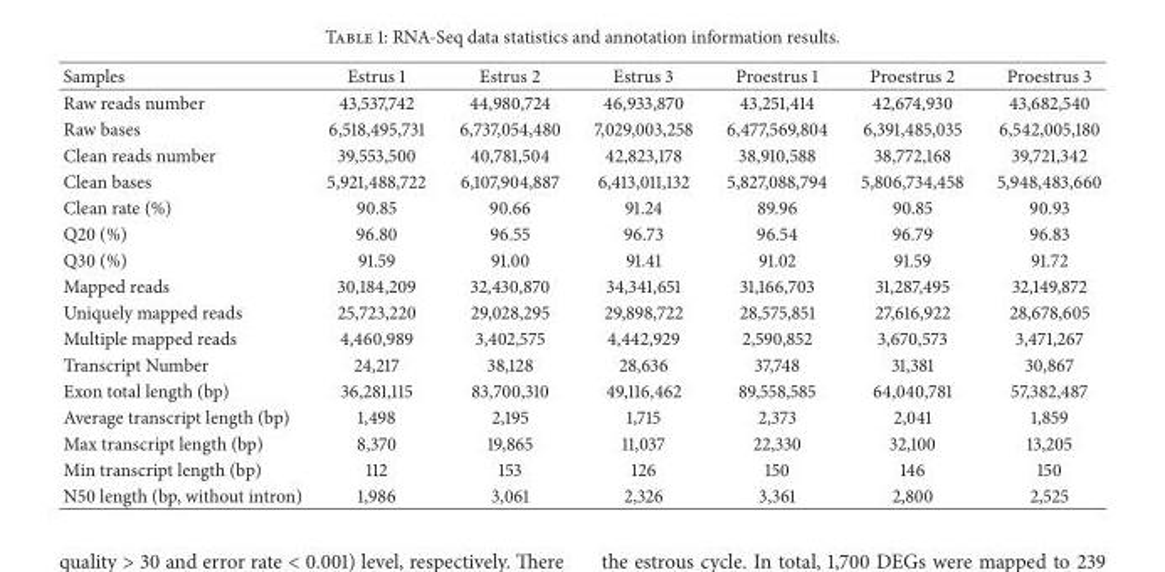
<table><thead><tr><td>Samples</td><td>Estrus 1</td><td>Estrus 2</td><td>Estrus 3</td><td>Proestrus 1</td><td>Proestrus 2</td><td>Proestrus 3</td></tr></thead><tbody><tr><td>Raw reads number</td><td>43,537,742</td><td>44,980,724</td><td>46,933,870</td><td>43,251,414</td><td>42,674,930</td><td>43,682,540</td></tr><tr><td>Raw bases</td><td>6,518,495,731</td><td>6,737,054,480</td><td>7,029,003,258</td><td>6,477,569,804</td><td>6,391,485,035</td><td>6,542,005,180</td></tr><tr><td>Clean reads number</td><td>39,553,500</td><td>40,781,504</td><td>42,823,178</td><td>38,910,588</td><td>38,772,168</td><td>39,721,342</td></tr><tr><td>Clean bases</td><td>5,921,488,722</td><td>6,107,904,887</td><td>6,413,011,132</td><td>5,827,088,794</td><td>5,806,734,458</td><td>5,948,483,660</td></tr><tr><td>Clean rate (%)</td><td>90.85</td><td>90.66</td><td>91.24</td><td>89.96</td><td>90.85</td><td>90.93</td></tr><tr><td>Q20 (%)</td><td>96.80</td><td>96.55</td><td>96.73</td><td>96.54</td><td>96.79</td><td>96.83</td></tr><tr><td>Q30 (%)</td><td>91.59</td><td>91.00</td><td>91.41</td><td>91.02</td><td>91.59</td><td>91.72</td></tr><tr><td>Mapped reads</td><td>30,184,209</td><td>32,430,870</td><td>34,341,651</td><td>31,166,703</td><td>31,287,495</td><td>32,149,872</td></tr><tr><td>Uniquely mapped reads</td><td>25,723,220</td><td>29,028,295</td><td>29,898,722</td><td>28,575,851</td><td>27,616,922</td><td>28,678,605</td></tr><tr><td>Multiple mapped reads</td><td>4,460,989</td><td>3,402,575</td><td>4,442,929</td><td>2,590,852</td><td>3,670,573</td><td>3,471,267</td></tr><tr><td>Transcript Number</td><td>24,217</td><td>38,128</td><td>28,636</td><td>37,748</td><td>31,381</td><td>30,867</td></tr><tr><td>Exon total length (bp)</td><td>36,281,115</td><td>83,700,310</td><td>49,116,462</td><td>89,558,585</td><td>64,040,781</td><td>57,382,487</td></tr><tr><td>Average transcript length (bp)</td><td>1,498</td><td>2,195</td><td>1,715</td><td>2,373</td><td>2,041</td><td>1,859</td></tr><tr><td>Max transcript length (bp)</td><td>8,370</td><td>19,865</td><td>11,037</td><td>22,330</td><td>32,100</td><td>13,205</td></tr><tr><td>Min transcript length (bp)</td><td>112</td><td>153</td><td>126</td><td>150</td><td>146</td><td>150</td></tr><tr><td>N50 length (bp, without intron)</td><td>1,986</td><td>3,061</td><td>2,326</td><td>3,361</td><td>2,800</td><td>2,525</td></tr></tbody></table>